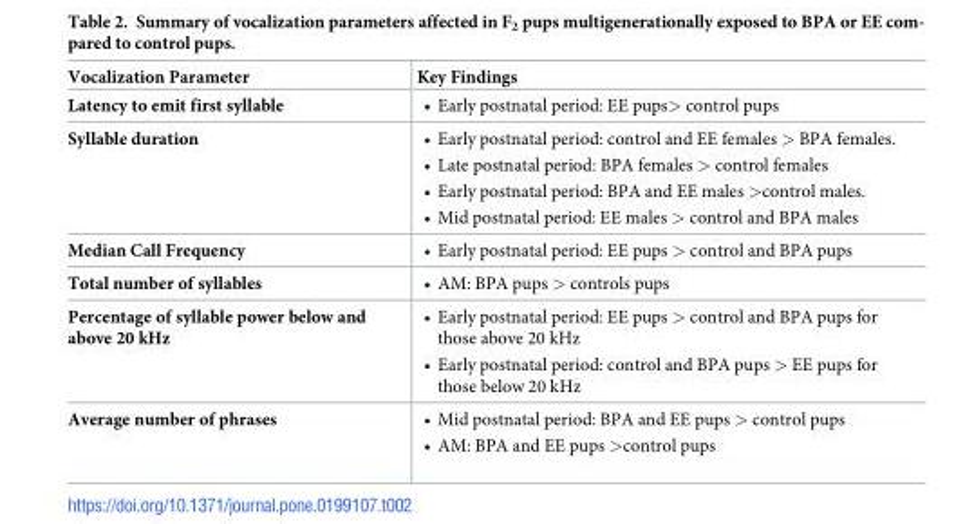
<table><thead><tr><td>Vocalization Parameter</td><td>Key Findings</td></tr></thead><tbody><tr><td>Latency to emit first syllable</td><td>• Early postnatal period: EE pups&gt; control pups</td></tr><tr><td>Syllable duration</td><td>• Early postnatal period: control and EE females &gt; BPA females. • Late postnatal period: BPA females &gt; control females • Early postnatal period: BPA and EE males &gt;control males. • Mid postnatal period: EE males &gt; control and BPA males</td></tr><tr><td>Median Call Frequency</td><td>• Early postnatal period: EE pups &gt; control and BPA pups</td></tr><tr><td>Total number of syllables</td><td>• AM: BPA pups &gt; controls pups</td></tr><tr><td>Percentage of syllable power below and above 20 kHz</td><td>• Early postnatal period: EE pups &gt; control and BPA pups for those above 20 kHz • Early postnatal period: control and BPA pups &gt; EE pups for those below 20 kHz</td></tr><tr><td>Average number of phrases</td><td>• Mid postnatal period: BPA and EE pups &gt; control pups • AM: BPA and EE pups &gt;control pups</td></tr></tbody></table>